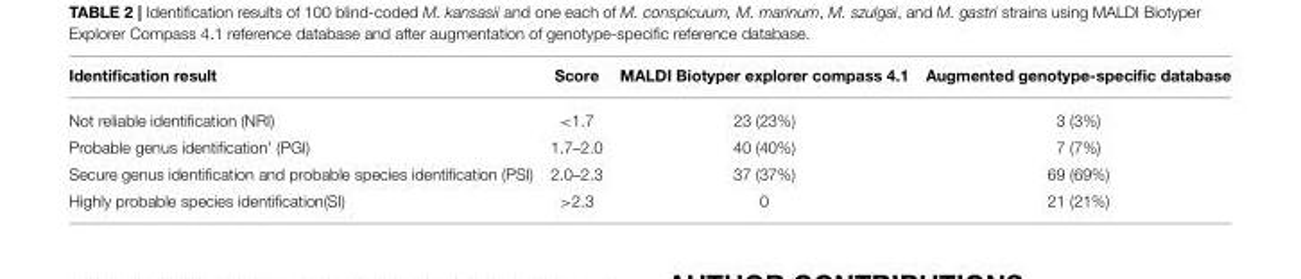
<table><thead><tr><td>Identification result</td><td>Score</td><td>MALDI Biotyper explorer compass 4.1</td><td>Augmented genotype-specific database</td></tr></thead><tbody><tr><td>Not reliable identification (NRI)</td><td>&lt;1.7</td><td>23 (23%)</td><td>3 (3%)</td></tr><tr><td>Probable genus identification’ (PGI)</td><td>1.7–2.0</td><td>40 (40%)</td><td>7 (7%)</td></tr><tr><td>Secure genus identification and probable species identification (PSI)</td><td>2.0–2.3</td><td>37 (37%)</td><td>69 (69%)</td></tr><tr><td>Highly probable species identification(SI)</td><td>&gt;2.3</td><td>0</td><td>21 (21%)</td></tr></tbody></table>